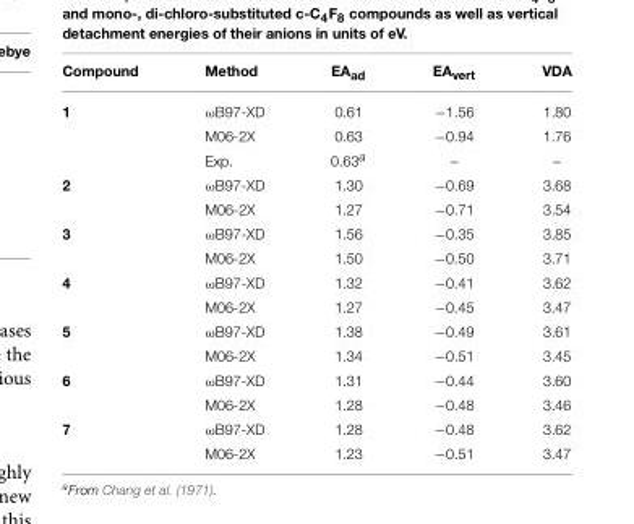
<table><thead><tr><td>Compound</td><td>Method</td><td>EA<sub>ad</sub></td><td>EA<sub>vert</sub></td><td>VDA</td></tr></thead><tbody><tr><td rowspan="3">1</td><td>ωB97-XD</td><td>0.61</td><td>−1.56</td><td>1.80</td></tr><tr><td>M06-2X</td><td>0.63</td><td>−0.94</td><td>1.76</td></tr><tr><td>Exp.</td><td>0.63<sup>a</sup></td><td>–</td><td>–</td></tr><tr><td rowspan="2">2</td><td>ωB97-XD</td><td>1.30</td><td>−0.69</td><td>3.68</td></tr><tr><td>M06-2X</td><td>1.27</td><td>−0.71</td><td>3.54</td></tr><tr><td rowspan="2">3</td><td>ωB97-XD</td><td>1.56</td><td>−0.35</td><td>3.85</td></tr><tr><td>M06-2X</td><td>1.50</td><td>−0.50</td><td>3.71</td></tr><tr><td rowspan="2">4</td><td>ωB97-XD</td><td>1.32</td><td>−0.41</td><td>3.62</td></tr><tr><td>M06-2X</td><td>1.27</td><td>−0.45</td><td>3.47</td></tr><tr><td rowspan="2">5</td><td>ωB97-XD</td><td>1.38</td><td>−0.49</td><td>3.61</td></tr><tr><td>M06-2X</td><td>1.34</td><td>−0.51</td><td>3.45</td></tr><tr><td rowspan="2">6</td><td>ωB97-XD</td><td>1.31</td><td>−0.44</td><td>3.60</td></tr><tr><td>M06-2X</td><td>1.28</td><td>−0.48</td><td>3.46</td></tr><tr><td rowspan="2">7</td><td>ωB97-XD</td><td>1.28</td><td>−0.48</td><td>3.62</td></tr><tr><td>M06-2X</td><td>1.23</td><td>−0.51</td><td>3.47</td></tr></tbody></table>